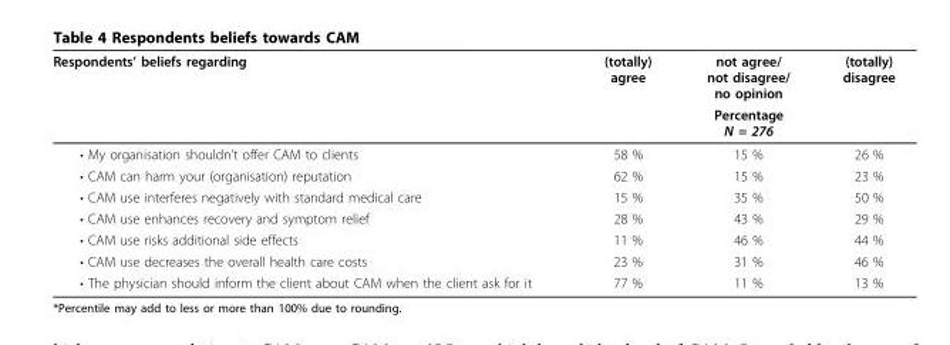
<table><tbody><tr><td rowspan="2">Respondents’ beliefs regarding</td><td>(totally) agree</td><td>not agree/ not disagree/ no opinion</td><td>(totally) disagree</td></tr><tr><td colspan="3">Percentage N = 276</td></tr><tr><td>• My organisation shouldn’t offer CAM to clients</td><td>58 %</td><td>15 %</td><td>26 %</td></tr><tr><td>• CAM can harm your (organisation) reputation</td><td>62 %</td><td>15 %</td><td>23 %</td></tr><tr><td>• CAM use interferes negatively with standard medical care</td><td>15 %</td><td>35 %</td><td>50 %</td></tr><tr><td>• CAM use enhances recovery and symptom relief</td><td>28 %</td><td>43 %</td><td>29 %</td></tr><tr><td>• CAM use risks additional side effects</td><td>11 %</td><td>46 %</td><td>44 %</td></tr><tr><td>• CAM use decreases the overall health care costs</td><td>23 %</td><td>31 %</td><td>46 %</td></tr><tr><td>• The physician should inform the client about CAM when the client ask for it</td><td>77 %</td><td>11 %</td><td>13 %</td></tr></tbody></table>